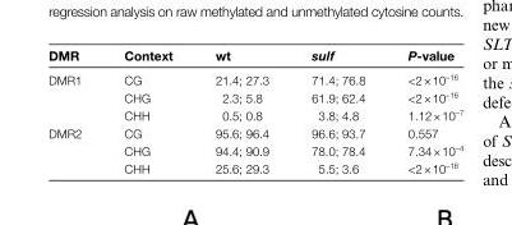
<table><thead><tr><td>DMR</td><td>Context</td><td>wt</td><td>sulf</td><td>P-value</td></tr></thead><tbody><tr><td rowspan="3">DMR1</td><td>CG</td><td>21.4; 27.3</td><td>71.4; 76.8</td><td>&lt;2 × 10<sup>–16</sup></td></tr><tr><td>CHG</td><td>2.3; 5.8</td><td>61.9; 62.4</td><td>&lt;2 × 10<sup>–16</sup></td></tr><tr><td>CHH</td><td>0.5; 0.8</td><td>3.8; 4.8</td><td>1.12 × 10<sup>–7</sup></td></tr><tr><td rowspan="3">DMR2</td><td>CG</td><td>95.6; 96.4</td><td>96.6; 93.7</td><td>0.557</td></tr><tr><td>CHG</td><td>94.4; 90.9</td><td>78.0; 78.4</td><td>7.34 × 10<sup>–4</sup></td></tr><tr><td>CHH</td><td>25.6; 29.3</td><td>5.5; 3.6</td><td>&lt;2 × 10<sup>–16</sup></td></tr></tbody></table>